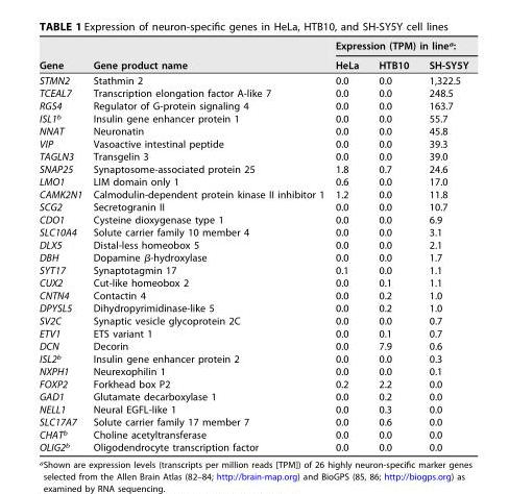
<table><thead><tr><td rowspan="2">Gene</td><td rowspan="2">Gene product name</td><td colspan="3">Expression (TPM) in line<sup>a</sup>:</td></tr><tr><td>HeLa</td><td>HTB10</td><td>SH-SY5Y</td></tr></thead><tbody><tr><td>STMN2</td><td>Stathmin 2</td><td>0.0</td><td>0.0</td><td>1,322.5</td></tr><tr><td>TCEAL7</td><td>Transcription elongation factor A-like 7</td><td>0.0</td><td>0.0</td><td>248.5</td></tr><tr><td>RGS4</td><td>Regulator of G-protein signaling 4</td><td>0.0</td><td>0.0</td><td>163.7</td></tr><tr><td>ISL1b</td><td>Insulin gene enhancer protein 1</td><td>0.0</td><td>0.0</td><td>55.7</td></tr><tr><td>NNAT</td><td>Neuronatin</td><td>0.0</td><td>0.0</td><td>45.8</td></tr><tr><td>VIP</td><td>Vasoactive intestinal peptide</td><td>0.0</td><td>0.0</td><td>39.3</td></tr><tr><td>TAGLN3</td><td>Transgelin 3</td><td>0.0</td><td>0.0</td><td>39.0</td></tr><tr><td>SNAP25</td><td>Synaptosome-associated protein 25</td><td>1.8</td><td>0.7</td><td>24.6</td></tr><tr><td>LMO1</td><td>LIM domain only 1</td><td>0.6</td><td>0.0</td><td>17.0</td></tr><tr><td>CAMK2N1</td><td>Calmodulin-dependent protein kinase II inhibitor 1</td><td>1.2</td><td>0.0</td><td>11.8</td></tr><tr><td>SCG2</td><td>Secretogranin II</td><td>0.0</td><td>0.0</td><td>10.7</td></tr><tr><td>CDO1</td><td>Cysteine dioxygenase type 1</td><td>0.0</td><td>0.0</td><td>6.9</td></tr><tr><td>SLC10A4</td><td>Solute carrier family 10 member 4</td><td>0.0</td><td>0.0</td><td>3.1</td></tr><tr><td>DLX5</td><td>Distal-less homeobox 5</td><td>0.0</td><td>0.0</td><td>2.1</td></tr><tr><td>DBH</td><td>Dopamine β-hydroxylase</td><td>0.0</td><td>0.0</td><td>1.7</td></tr><tr><td>SYT17</td><td>Synaptotagmin 17</td><td>0.1</td><td>0.0</td><td>1.1</td></tr><tr><td>CUX2</td><td>Cut-like homeobox 2</td><td>0.0</td><td>0.1</td><td>1.1</td></tr><tr><td>CNTN4</td><td>Contactin 4</td><td>0.0</td><td>0.2</td><td>1.0</td></tr><tr><td>DPYSL5</td><td>Dihydropyrimidinase-like 5</td><td>0.0</td><td>0.2</td><td>1.0</td></tr><tr><td>SV2C</td><td>Synaptic vesicle glycoprotein 2C</td><td>0.0</td><td>0.0</td><td>0.7</td></tr><tr><td>ETV1</td><td>ETS variant 1</td><td>0.0</td><td>0.1</td><td>0.7</td></tr><tr><td>DCN</td><td>Decorin</td><td>0.0</td><td>7.9</td><td>0.6</td></tr><tr><td>ISL2b</td><td>Insulin gene enhancer protein 2</td><td>0.0</td><td>0.0</td><td>0.3</td></tr><tr><td>NXPH1</td><td>Neurexophilin 1</td><td>0.0</td><td>0.0</td><td>0.1</td></tr><tr><td>FOXP2</td><td>Forkhead box P2</td><td>0.2</td><td>2.2</td><td>0.0</td></tr><tr><td>GAD1</td><td>Glutamate decarboxylase 1</td><td>0.0</td><td>0.2</td><td>0.0</td></tr><tr><td>NELL1</td><td>Neural EGFL-like 1</td><td>0.0</td><td>0.3</td><td>0.0</td></tr><tr><td>SLC17A7</td><td>Solute carrier family 17 member 7</td><td>0.0</td><td>0.6</td><td>0.0</td></tr><tr><td>CHATb</td><td>Choline acetyltransferase</td><td>0.0</td><td>0.0</td><td>0.0</td></tr><tr><td>OLIG2b</td><td>Oligodendrocyte transcription factor</td><td>0.0</td><td>0.0</td><td>0.0</td></tr></tbody></table>